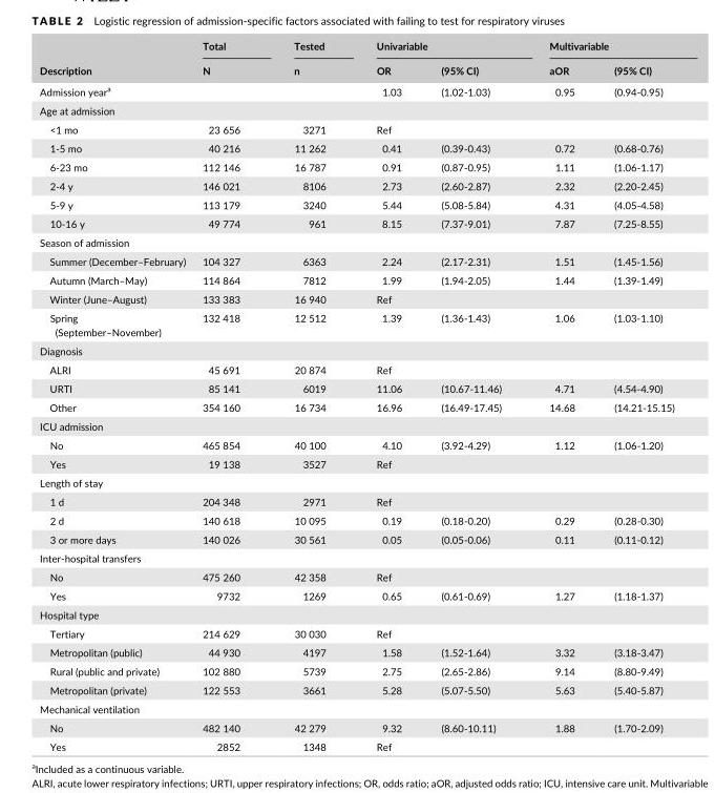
<table><thead><tr><td rowspan="2">Description</td><td rowspan="2">Total N</td><td rowspan="2">Tested n</td><td colspan="2">Univariable</td><td colspan="2">Multivariable</td></tr><tr><td>OR</td><td>(95% CI)</td><td>aOR</td><td>(95% CI)</td></tr></thead><tbody><tr><td>Admission year<sup>a</sup></td><td></td><td></td><td>1.03</td><td>(1.02- 1.03)</td><td>0.95</td><td>(0.94- 0.95)</td></tr><tr><td colspan="7">Age at admission</td></tr><tr><td>&lt;1 mo</td><td>23 656</td><td>3271</td><td>Ref</td><td></td><td></td><td></td></tr><tr><td>1- 5 mo</td><td>40 216</td><td>11 262</td><td>0.41</td><td>(0.39- 0.43)</td><td>0.72</td><td>(0.68- 0.76)</td></tr><tr><td>6- 23 mo</td><td>112 146</td><td>16 787</td><td>0.91</td><td>(0.87- 0.95)</td><td>1.11</td><td>(1.06- 1.17)</td></tr><tr><td>2- 4 y</td><td>146 021</td><td>8106</td><td>2.73</td><td>(2.60- 2.87)</td><td>2.32</td><td>(2.20- 2.45)</td></tr><tr><td>5- 9 y</td><td>113 179</td><td>3240</td><td>5.44</td><td>(5.08- 5.84)</td><td>4.31</td><td>(4.05- 4.58)</td></tr><tr><td>10- 16 y</td><td>49 774</td><td>961</td><td>8.15</td><td>(7.37- 9.01)</td><td>7.87</td><td>(7.25- 8.55)</td></tr><tr><td colspan="7">Season of admission</td></tr><tr><td>Summer (December–February)</td><td>104 327</td><td>6363</td><td>2.24</td><td>(2.17- 2.31)</td><td>1.51</td><td>(1.45- 1.56)</td></tr><tr><td>Autumn (March–May)</td><td>114 864</td><td>7812</td><td>1.99</td><td>(1.94- 2.05)</td><td>1.44</td><td>(1.39- 1.49)</td></tr><tr><td>Winter (June–August)</td><td>133 383</td><td>16 940</td><td>Ref</td><td></td><td></td><td></td></tr><tr><td>Spring (September–November)</td><td>132 418</td><td>12 512</td><td>1.39</td><td>(1.36- 1.43)</td><td>1.06</td><td>(1.03- 1.10)</td></tr><tr><td colspan="7">Diagnosis</td></tr><tr><td>ALRI</td><td>45 691</td><td>20 874</td><td>Ref</td><td></td><td></td><td></td></tr><tr><td>URTI</td><td>85 141</td><td>6019</td><td>11.06</td><td>(10.67- 11.46)</td><td>4.71</td><td>(4.54- 4.90)</td></tr><tr><td>Other</td><td>354 160</td><td>16 734</td><td>16.96</td><td>(16.49- 17.45)</td><td>14.68</td><td>(14.21- 15.15)</td></tr><tr><td colspan="7">ICU admission</td></tr><tr><td>No</td><td>465 854</td><td>40 100</td><td>4.10</td><td>(3.92- 4.29)</td><td>1.12</td><td>(1.06- 1.20)</td></tr><tr><td>Yes</td><td>19 138</td><td>3527</td><td>Ref</td><td></td><td></td><td></td></tr><tr><td colspan="7">Length of stay</td></tr><tr><td>1 d</td><td>204 348</td><td>2971</td><td>Ref</td><td></td><td></td><td></td></tr><tr><td>2 d</td><td>140 618</td><td>10 095</td><td>0.19</td><td>(0.18- 0.20)</td><td>0.29</td><td>(0.28- 0.30)</td></tr><tr><td>3 or more days</td><td>140 026</td><td>30 561</td><td>0.05</td><td>(0.05- 0.06)</td><td>0.11</td><td>(0.11- 0.12)</td></tr><tr><td colspan="7">Inter- hospital transfers</td></tr><tr><td>No</td><td>475 260</td><td>42 358</td><td>Ref</td><td></td><td></td><td></td></tr><tr><td>Yes</td><td>9732</td><td>1269</td><td>0.65</td><td>(0.61- 0.69)</td><td>1.27</td><td>(1.18- 1.37)</td></tr><tr><td colspan="7">Hospital type</td></tr><tr><td>Tertiary</td><td>214 629</td><td>30 030</td><td>Ref</td><td></td><td></td><td></td></tr><tr><td>Metropolitan (public)</td><td>44 930</td><td>4197</td><td>1.58</td><td>(1.52- 1.64)</td><td>3.32</td><td>(3.18- 3.47)</td></tr><tr><td>Rural (public and private)</td><td>102 880</td><td>5739</td><td>2.75</td><td>(2.65- 2.86)</td><td>9.14</td><td>(8.80- 9.49)</td></tr><tr><td>Metropolitan (private)</td><td>122 553</td><td>3661</td><td>5.28</td><td>(5.07- 5.50)</td><td>5.63</td><td>(5.40- 5.87)</td></tr><tr><td colspan="7">Mechanical ventilation</td></tr><tr><td>No</td><td>482 140</td><td>42 279</td><td>9.32</td><td>(8.60- 10.11)</td><td>1.88</td><td>(1.70- 2.09)</td></tr><tr><td>Yes</td><td>2852</td><td>1348</td><td>Ref</td><td></td><td></td><td></td></tr></tbody></table>